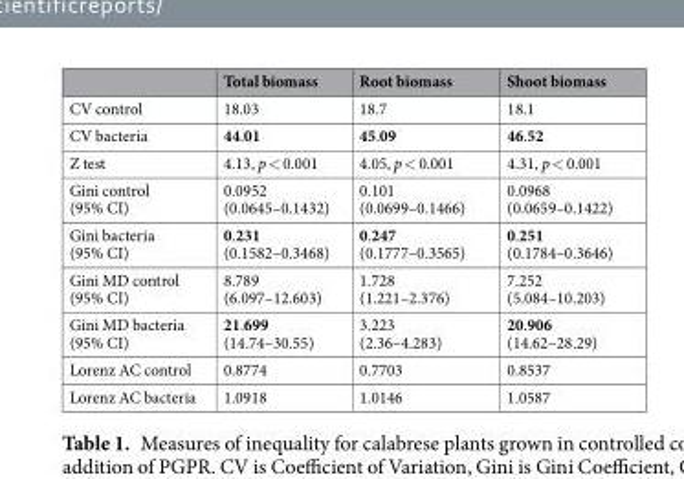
<table><thead><tr><td></td><td>Total biomass</td><td>Root biomass</td><td>Shoot biomass</td></tr></thead><tbody><tr><td>CV control</td><td>18.03</td><td>18.7</td><td>18.1</td></tr><tr><td>CV bacteria</td><td>44.01</td><td>45.09</td><td>46.52</td></tr><tr><td>Z test</td><td>4.13, p &lt; 0.001</td><td>4.05, p &lt; 0.001</td><td>4.31, p &lt; 0.001</td></tr><tr><td>Gini control (95% CI)</td><td>0.0952 (0.0645–0.1432)</td><td>0.101 (0.0699–0.1466)</td><td>0.0968 (0.0659–0.1422)</td></tr><tr><td>Gini bacteria (95% CI)</td><td>0.231 (0.1582–0.3468)</td><td>0.247 (0.1777–0.3565)</td><td>0.251 (0.1784–0.3646)</td></tr><tr><td>Gini MD control (95% CI)</td><td>8.789 (6.097–12.603)</td><td>1.728 (1.221–2.376)</td><td>7.252 (5.084–10.203)</td></tr><tr><td>Gini MD bacteria (95% CI)</td><td>21.699 (14.74–30.55)</td><td>3.223 (2.36–4.283)</td><td>20.906 (14.62–28.29)</td></tr><tr><td>Lorenz AC control</td><td>0.8774</td><td>0.7703</td><td>0.8537</td></tr><tr><td>Lorenz AC bacteria</td><td>1.0918</td><td>1.0146</td><td>1.0587</td></tr></tbody></table>